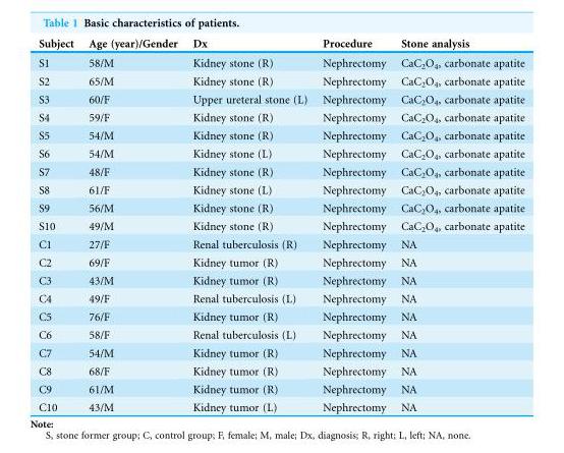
<table><thead><tr><td>Subject</td><td>Age (year)/Gender</td><td>Dx</td><td>Procedure</td><td>Stone analysis</td></tr></thead><tbody><tr><td>S1</td><td>58/M</td><td>Kidney stone (R)</td><td>Nephrectomy</td><td>CaC<sub>2</sub>O<sub>4</sub>, carbonate apatite</td></tr><tr><td>S2</td><td>65/M</td><td>Kidney stone (R)</td><td>Nephrectomy</td><td>CaC<sub>2</sub>O<sub>4</sub>, carbonate apatite</td></tr><tr><td>S3</td><td>60/F</td><td>Upper ureteral stone (L)</td><td>Nephrectomy</td><td>CaC<sub>2</sub>O<sub>4</sub>, carbonate apatite</td></tr><tr><td>S4</td><td>59/F</td><td>Kidney stone (R)</td><td>Nephrectomy</td><td>CaC<sub>2</sub>O<sub>4</sub>, carbonate apatite</td></tr><tr><td>S5</td><td>54/M</td><td>Kidney stone (R)</td><td>Nephrectomy</td><td>CaC<sub>2</sub>O<sub>4</sub>, carbonate apatite</td></tr><tr><td>S6</td><td>54/M</td><td>Kidney stone (L)</td><td>Nephrectomy</td><td>CaC<sub>2</sub>O<sub>4</sub>, carbonate apatite</td></tr><tr><td>S7</td><td>48/F</td><td>Kidney stone (R)</td><td>Nephrectomy</td><td>CaC<sub>2</sub>O<sub>4</sub>, carbonate apatite</td></tr><tr><td>S8</td><td>61/F</td><td>Kidney stone (L)</td><td>Nephrectomy</td><td>CaC<sub>2</sub>O<sub>4</sub>, carbonate apatite</td></tr><tr><td>S9</td><td>56/M</td><td>Kidney stone (R)</td><td>Nephrectomy</td><td>CaC<sub>2</sub>O<sub>4</sub>, carbonate apatite</td></tr><tr><td>S10</td><td>49/M</td><td>Kidney stone (R)</td><td>Nephrectomy</td><td>CaC<sub>2</sub>O<sub>4</sub>, carbonate apatite</td></tr><tr><td>C1</td><td>27/F</td><td>Renal tuberculosis (R)</td><td>Nephrectomy</td><td>NA</td></tr><tr><td>C2</td><td>69/F</td><td>Kidney tumor (R)</td><td>Nephrectomy</td><td>NA</td></tr><tr><td>C3</td><td>43/M</td><td>Kidney tumor (R)</td><td>Nephrectomy</td><td>NA</td></tr><tr><td>C4</td><td>49/F</td><td>Renal tuberculosis (L)</td><td>Nephrectomy</td><td>NA</td></tr><tr><td>C5</td><td>76/F</td><td>Kidney tumor (R)</td><td>Nephrectomy</td><td>NA</td></tr><tr><td>C6</td><td>58/F</td><td>Renal tuberculosis (L)</td><td>Nephrectomy</td><td>NA</td></tr><tr><td>C7</td><td>54/M</td><td>Kidney tumor (R)</td><td>Nephrectomy</td><td>NA</td></tr><tr><td>C8</td><td>68/F</td><td>Kidney tumor (R)</td><td>Nephrectomy</td><td>NA</td></tr><tr><td>C9</td><td>61/M</td><td>Kidney tumor (R)</td><td>Nephrectomy</td><td>NA</td></tr><tr><td>C10</td><td>43/M</td><td>Kidney tumor (L)</td><td>Nephrectomy</td><td>NA</td></tr></tbody></table>